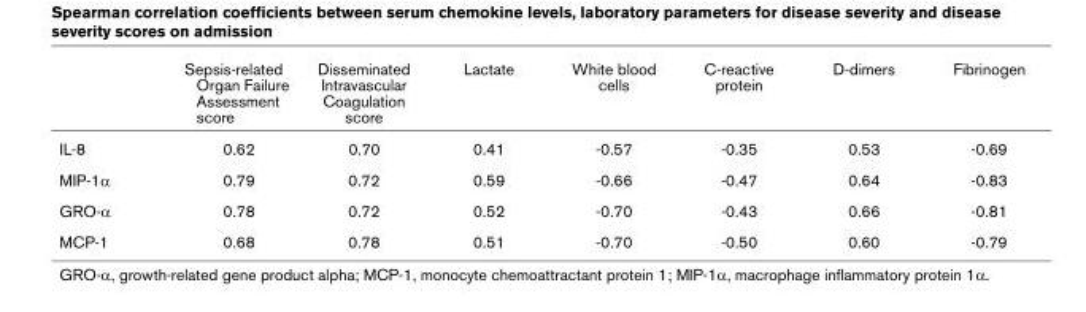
<table><thead><tr><td></td><td>Sepsis-related Organ Failure Assessment score</td><td>Disseminated Intravascular Coagulation score</td><td>Lactate</td><td>White blood cells</td><td>C-reactive protein</td><td>D-dimers</td><td>Fibrinogen</td></tr></thead><tbody><tr><td>IL-8</td><td>0.62</td><td>0.70</td><td>0.41</td><td>-0.57</td><td>-0.35</td><td>0.53</td><td>-0.69</td></tr><tr><td>MIP-1α</td><td>0.79</td><td>0.72</td><td>0.59</td><td>-0.66</td><td>-0.47</td><td>0.64</td><td>-0.83</td></tr><tr><td>GRO-α</td><td>0.78</td><td>0.72</td><td>0.52</td><td>-0.70</td><td>-0.43</td><td>0.66</td><td>-0.81</td></tr><tr><td>MCP-1</td><td>0.68</td><td>0.78</td><td>0.51</td><td>-0.70</td><td>-0.50</td><td>0.60</td><td>-0.79</td></tr></tbody></table>